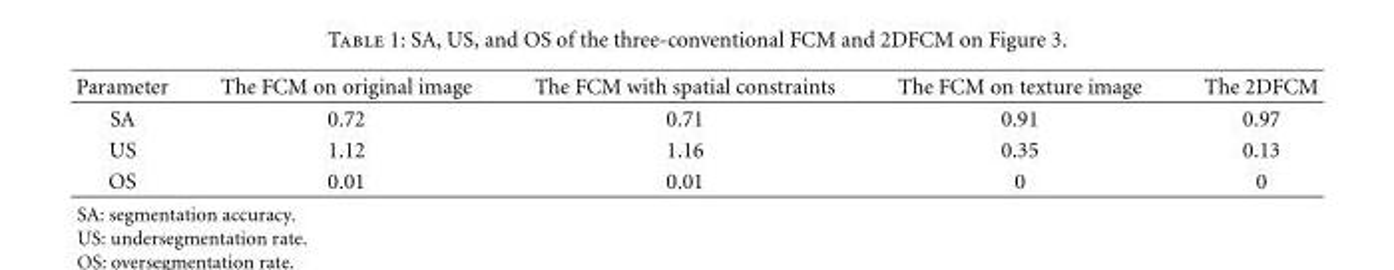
<table><thead><tr><td>Parameter</td><td>The FCM on original image</td><td>The FCM with spatial constraints</td><td>The FCM on texture image</td><td>The 2DFCM</td></tr></thead><tbody><tr><td>SA</td><td>0.72</td><td>0.71</td><td>0.91</td><td>0.97</td></tr><tr><td>US</td><td>1.12</td><td>1.16</td><td>0.35</td><td>0.13</td></tr><tr><td>OS</td><td>0.01</td><td>0.01</td><td>0</td><td>0</td></tr></tbody></table>